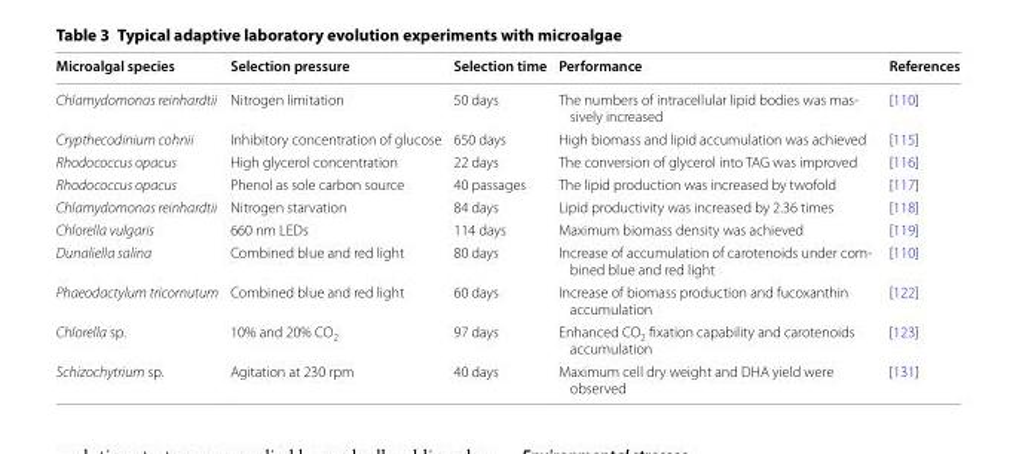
<table><thead><tr><td>Microalgal species</td><td>Selection pressure</td><td>Selection time</td><td>Performance</td><td>References</td></tr></thead><tbody><tr><td>Chlamydomonas reinhardtii</td><td>Nitrogen limitation</td><td>50 days</td><td>The numbers of intracellular lipid bodies was mas‑ sively increased</td><td>[110]</td></tr><tr><td>Crypthecodinium cohnii</td><td>Inhibitory concentration of glucose</td><td>650 days</td><td>High biomass and lipid accumulation was achieved</td><td>[115]</td></tr><tr><td>Rhodococcus opacus</td><td>High glycerol concentration</td><td>22 days</td><td>The conversion of glycerol into TAG was improved</td><td>[116]</td></tr><tr><td>Rhodococcus opacus</td><td>Phenol as sole carbon source</td><td>40 passages</td><td>The lipid production was increased by twofold</td><td>[117]</td></tr><tr><td>Chlamydomonas reinhardtii</td><td>Nitrogen starvation</td><td>84 days</td><td>Lipid productivity was increased by 2.36 times</td><td>[118]</td></tr><tr><td>Chlorella vulgaris</td><td>660 nm LEDs</td><td>114 days</td><td>Maximum biomass density was achieved</td><td>[119]</td></tr><tr><td>Dunaliella salina</td><td>Combined blue and red light</td><td>80 days</td><td>Increase of accumulation of carotenoids under com‑ bined blue and red light</td><td>[110]</td></tr><tr><td>Phaeodactylum tricornutum</td><td>Combined blue and red light</td><td>60 days</td><td>Increase of biomass production and fucoxanthin accumulation</td><td>[122]</td></tr><tr><td>Chlorella sp.</td><td>10% and 20% CO<sub>2</sub></td><td>97 days</td><td>Enhanced CO<sub>2</sub> fixation capability and carotenoids accumulation</td><td>[123]</td></tr><tr><td>Schizochytrium sp.</td><td>Agitation at 230 rpm</td><td>40 days</td><td>Maximum cell dry weight and DHA yield were observed</td><td>[131]</td></tr></tbody></table>